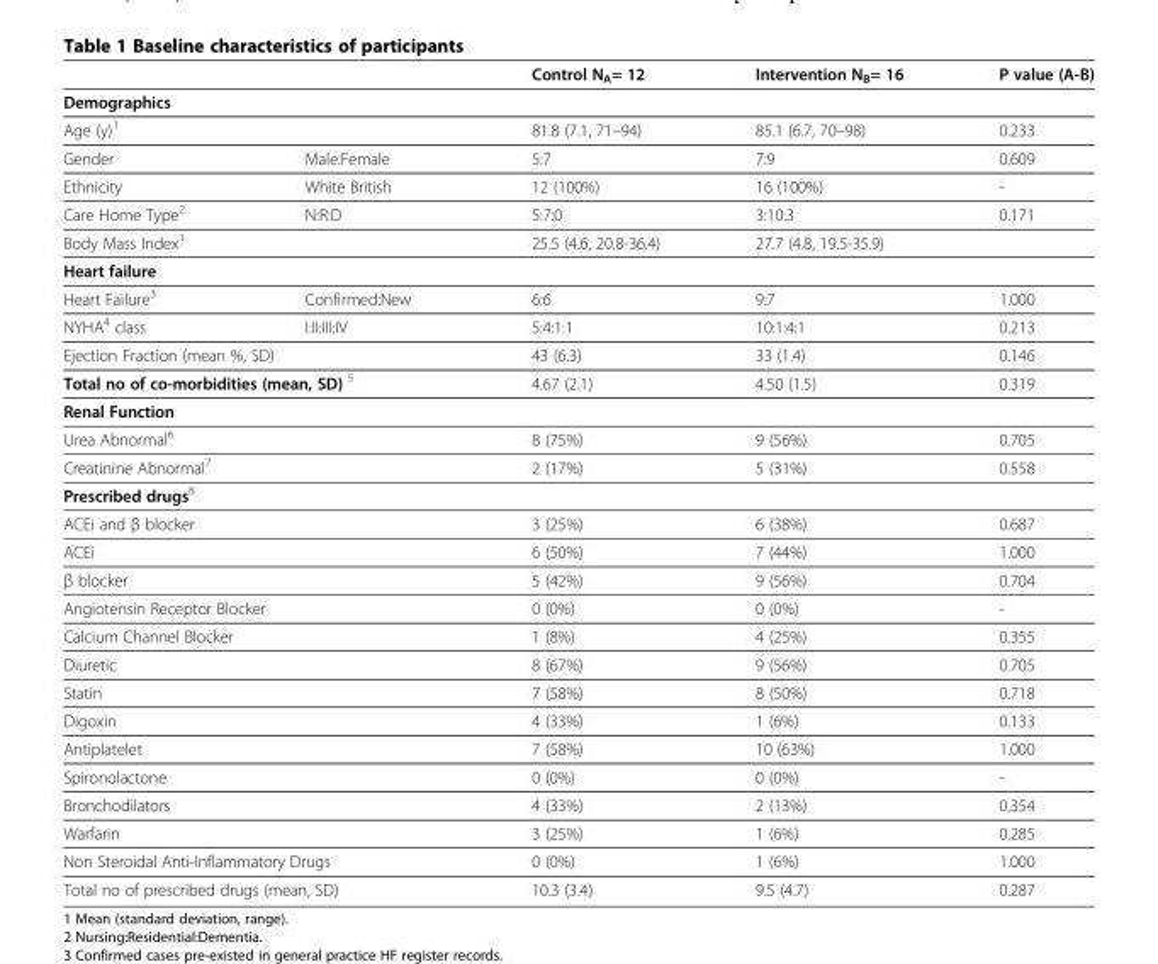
<table><thead><tr><td></td><td></td><td>Control N<sub>A</sub>= 12</td><td>Intervention N<sub>B</sub>= 16</td><td>P value (A-B)</td></tr></thead><tbody><tr><td colspan="5">Demographics</td></tr><tr><td colspan="2">Age (y)<sup>1</sup></td><td>81.8 (7.1, 71–94)</td><td>85.1 (6.7, 70–98)</td><td>0.233</td></tr><tr><td>Gender</td><td>Male:Female</td><td>5:7</td><td>7:9</td><td>0.609</td></tr><tr><td>Ethnicity</td><td>White British</td><td>12 (100%)</td><td>16 (100%)</td><td>-</td></tr><tr><td>Care Home Type<sup>2</sup></td><td>N:R:D</td><td>5:7:0</td><td>3:10:3</td><td>0.171</td></tr><tr><td colspan="2">Body Mass Index<sup>1</sup></td><td>25.5 (4.6, 20.8-36.4)</td><td>27.7 (4.8, 19.5-35.9)</td><td></td></tr><tr><td colspan="5">Heart failure</td></tr><tr><td>Heart Failure<sup>3</sup></td><td>Confirmed:New</td><td>6:6</td><td>9:7</td><td>1.000</td></tr><tr><td>NYHA<sup>4</sup> class</td><td>I:II:III:IV</td><td>5:4:1:1</td><td>10:1:4:1</td><td>0.213</td></tr><tr><td colspan="2">Ejection Fraction (mean %, SD)</td><td>43 (6.3)</td><td>33 (1.4)</td><td>0.146</td></tr><tr><td colspan="2">Total no of co-morbidities (mean, SD) <sup>5</sup></td><td>4.67 (2.1)</td><td>4.50 (1.5)</td><td>0.319</td></tr><tr><td colspan="5">Renal Function</td></tr><tr><td colspan="2">Urea Abnormal<sup>6</sup></td><td>8 (75%)</td><td>9 (56%)</td><td>0.705</td></tr><tr><td colspan="2">Creatinine Abnormal<sup>7</sup></td><td>2 (17%)</td><td>5 (31%)</td><td>0.558</td></tr><tr><td colspan="5">Prescribed drugs<sup>8</sup></td></tr><tr><td colspan="2">ACEi and β blocker</td><td>3 (25%)</td><td>6 (38%)</td><td>0.687</td></tr><tr><td colspan="2">ACEi</td><td>6 (50%)</td><td>7 (44%)</td><td>1.000</td></tr><tr><td colspan="2">β blocker</td><td>5 (42%)</td><td>9 (56%)</td><td>0.704</td></tr><tr><td colspan="2">Angiotensin Receptor Blocker</td><td>0 (0%)</td><td>0 (0%)</td><td>-</td></tr><tr><td colspan="2">Calcium Channel Blocker</td><td>1 (8%)</td><td>4 (25%)</td><td>0.355</td></tr><tr><td colspan="2">Diuretic</td><td>8 (67%)</td><td>9 (56%)</td><td>0.705</td></tr><tr><td colspan="2">Statin</td><td>7 (58%)</td><td>8 (50%)</td><td>0.718</td></tr><tr><td colspan="2">Digoxin</td><td>4 (33%)</td><td>1 (6%)</td><td>0.133</td></tr><tr><td colspan="2">Antiplatelet</td><td>7 (58%)</td><td>10 (63%)</td><td>1.000</td></tr><tr><td colspan="2">Spironolactone</td><td>0 (0%)</td><td>0 (0%)</td><td>-</td></tr><tr><td colspan="2">Bronchodilators</td><td>4 (33%)</td><td>2 (13%)</td><td>0.354</td></tr><tr><td colspan="2">Warfarin</td><td>3 (25%)</td><td>1 (6%)</td><td>0.285</td></tr><tr><td colspan="2">Non Steroidal Anti-Inflammatory Drugs</td><td>0 (0%)</td><td>1 (6%)</td><td>1.000</td></tr><tr><td colspan="2">Total no of prescribed drugs (mean, SD)</td><td>10.3 (3.4)</td><td>9.5 (4.7)</td><td>0.287</td></tr></tbody></table>